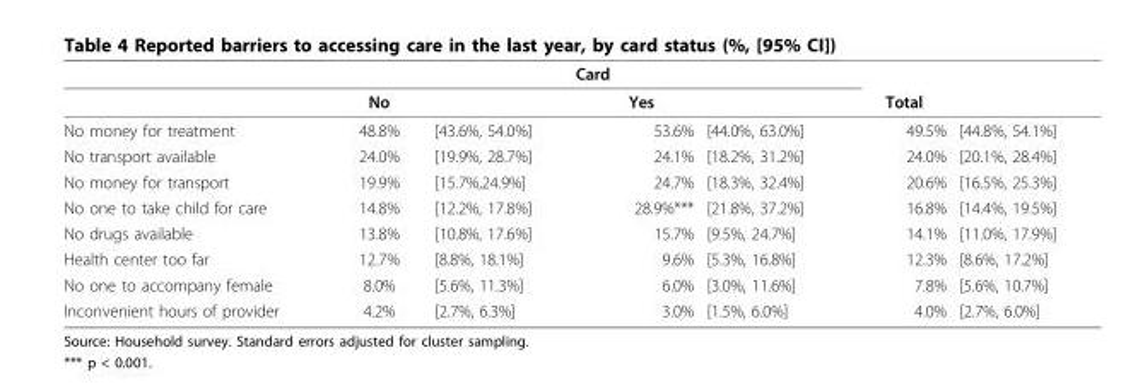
<table><thead><tr><td rowspan="2"></td><td colspan="4">Card</td><td rowspan="2">Total</td><td rowspan="2"></td></tr><tr><td>No</td><td></td><td>Yes</td><td></td></tr></thead><tbody><tr><td>No money for treatment</td><td>48.8%</td><td>[43.6%, 54.0%]</td><td>53.6%</td><td>[44.0%, 63.0%]</td><td>49.5%</td><td>[44.8%, 54.1%]</td></tr><tr><td>No transport available</td><td>24.0%</td><td>[19.9%, 28.7%]</td><td>24.1%</td><td>[18.2%, 31.2%]</td><td>24.0%</td><td>[20.1%, 28.4%]</td></tr><tr><td>No money for transport</td><td>19.9%</td><td>[15.7%,24.9%]</td><td>24.7%</td><td>[18.3%, 32.4%]</td><td>20.6%</td><td>[16.5%, 25.3%]</td></tr><tr><td>No one to take child for care</td><td>14.8%</td><td>[12.2%, 17.8%]</td><td>28.9%***</td><td>[21.8%, 37.2%]</td><td>16.8%</td><td>[14.4%, 19.5%]</td></tr><tr><td>No drugs available</td><td>13.8%</td><td>[10.8%, 17.6%]</td><td>15.7%</td><td>[9.5%, 24.7%]</td><td>14.1%</td><td>[11.0%, 17.9%]</td></tr><tr><td>Health center too far</td><td>12.7%</td><td>[8.8%, 18.1%]</td><td>9.6%</td><td>[5.3%, 16.8%]</td><td>12.3%</td><td>[8.6%, 17.2%]</td></tr><tr><td>No one to accompany female</td><td>8.0%</td><td>[5.6%, 11.3%]</td><td>6.0%</td><td>[3.0%, 11.6%]</td><td>7.8%</td><td>[5.6%, 10.7%]</td></tr><tr><td>Inconvenient hours of provider</td><td>4.2%</td><td>[2.7%, 6.3%]</td><td>3.0%</td><td>[1.5%, 6.0%]</td><td>4.0%</td><td>[2.7%, 6.0%]</td></tr></tbody></table>